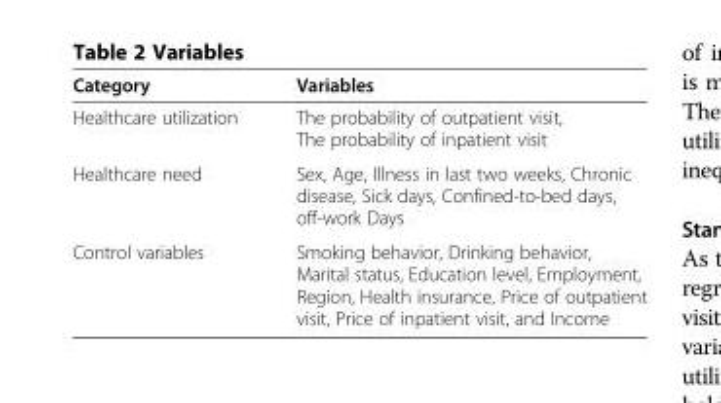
<table><thead><tr><td>Category</td><td>Variables</td></tr></thead><tbody><tr><td>Healthcare utilization</td><td>The probability of outpatient visit, The probability of inpatient visit</td></tr><tr><td>Healthcare need</td><td>Sex, Age, Illness in last two weeks, Chronic disease, Sick days, Confined-to-bed days, off-work Days</td></tr><tr><td>Control variables</td><td>Smoking behavior, Drinking behavior, Marital status, Education level, Employment, Region, Health insurance, Price of outpatient visit, Price of inpatient visit, and Income</td></tr></tbody></table>